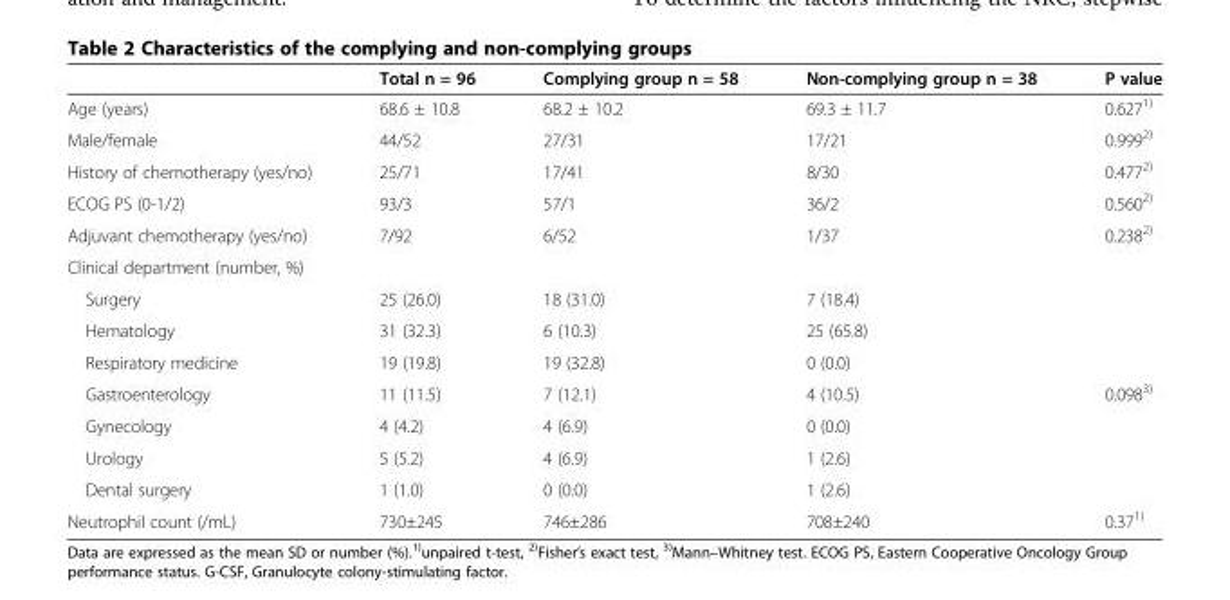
<table><thead><tr><td></td><td>Total n = 96</td><td>Complying group n = 58</td><td>Non-complying group n = 38</td><td>P value</td></tr></thead><tbody><tr><td>Age (years)</td><td>68.6 ± 10.8</td><td>68.2 ± 10.2</td><td>69.3 ± 11.7</td><td>0.627<sup>1)</sup></td></tr><tr><td>Male/female</td><td>44/52</td><td>27/31</td><td>17/21</td><td>0.999<sup>2)</sup></td></tr><tr><td>History of chemotherapy (yes/no)</td><td>25/71</td><td>17/41</td><td>8/30</td><td>0.477<sup>2)</sup></td></tr><tr><td>ECOG PS (0-1/2)</td><td>93/3</td><td>57/1</td><td>36/2</td><td>0.560<sup>2)</sup></td></tr><tr><td>Adjuvant chemotherapy (yes/no)</td><td>7/92</td><td>6/52</td><td>1/37</td><td>0.238<sup>2)</sup></td></tr><tr><td colspan="5">Clinical department (number, %)</td></tr><tr><td>Surgery</td><td>25 (26.0)</td><td>18 (31.0)</td><td>7 (18.4)</td><td></td></tr><tr><td>Hematology</td><td>31 (32.3)</td><td>6 (10.3)</td><td>25 (65.8)</td><td></td></tr><tr><td>Respiratory medicine</td><td>19 (19.8)</td><td>19 (32.8)</td><td>0 (0.0)</td><td></td></tr><tr><td>Gastroenterology</td><td>11 (11.5)</td><td>7 (12.1)</td><td>4 (10.5)</td><td>0.098<sup>3)</sup></td></tr><tr><td>Gynecology</td><td>4 (4.2)</td><td>4 (6.9)</td><td>0 (0.0)</td><td></td></tr><tr><td>Urology</td><td>5 (5.2)</td><td>4 (6.9)</td><td>1 (2.6)</td><td></td></tr><tr><td>Dental surgery</td><td>1 (1.0)</td><td>0 (0.0)</td><td>1 (2.6)</td><td></td></tr><tr><td>Neutrophil count (/mL)</td><td>730±245</td><td>746±286</td><td>708±240</td><td>0.37<sup>1)</sup></td></tr></tbody></table>